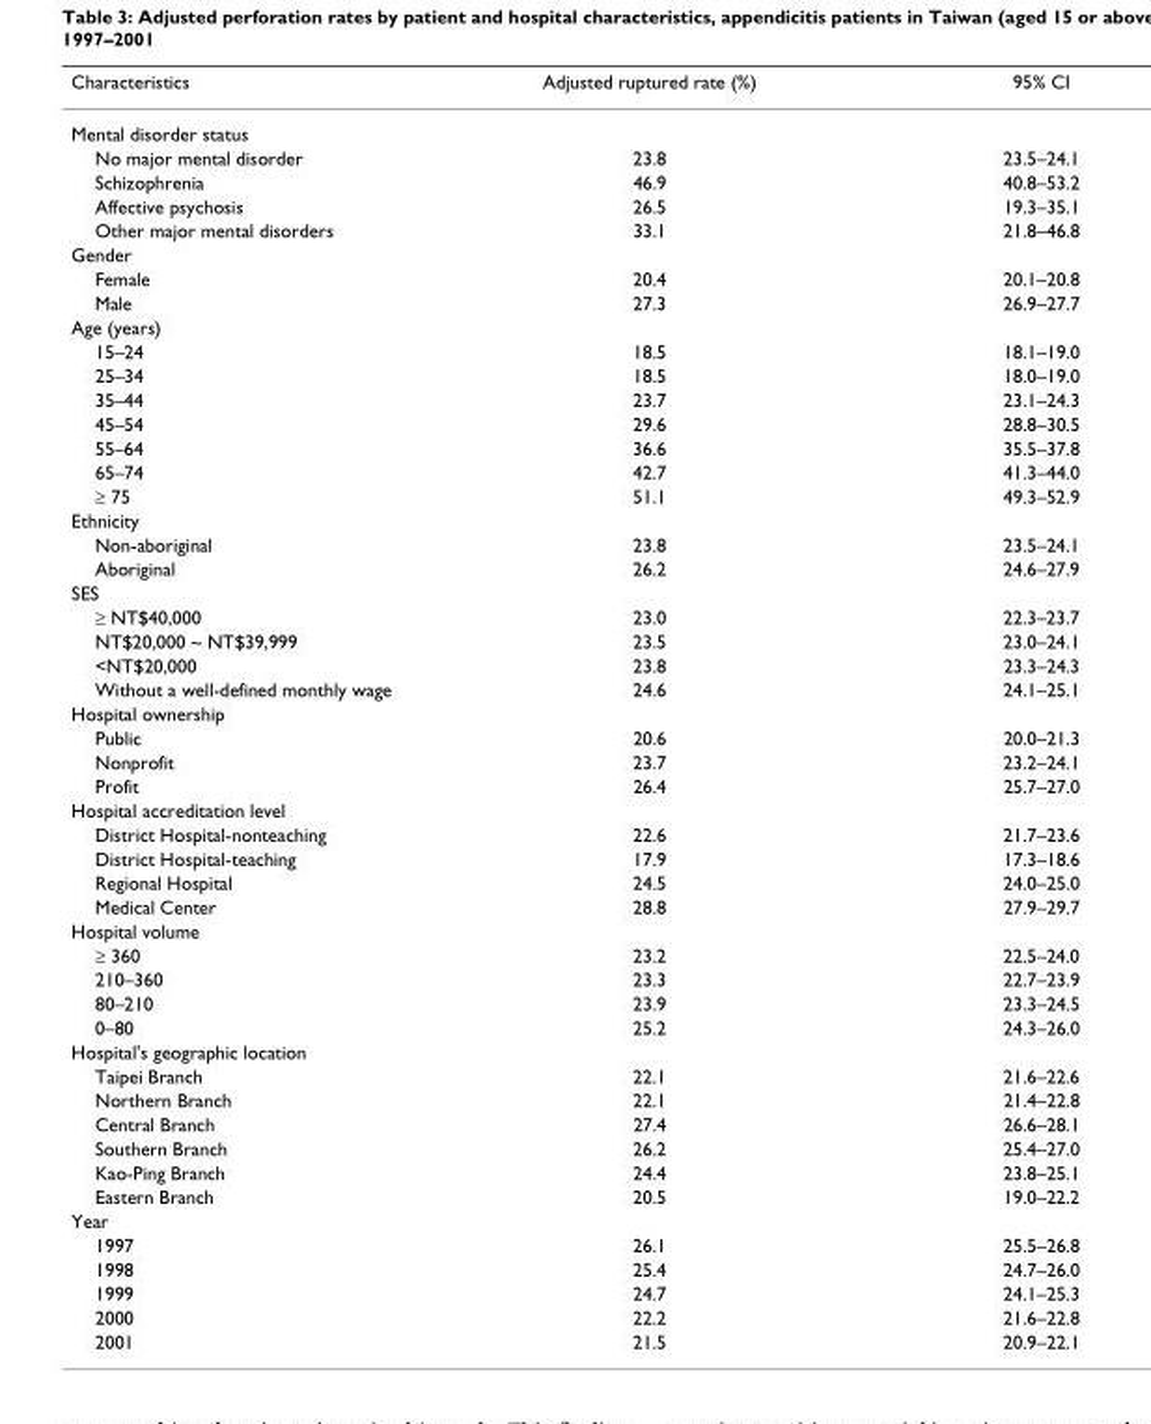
<table><thead><tr><td>Characteristics</td><td>Adjusted ruptured rate (%)</td><td>95% CI</td></tr></thead><tbody><tr><td colspan="3">Mental disorder status</td></tr><tr><td>No major mental disorder</td><td>23.8</td><td>23.5–24.1</td></tr><tr><td>Schizophrenia</td><td>46.9</td><td>40.8–53.2</td></tr><tr><td>Affective psychosis</td><td>26.5</td><td>19.3–35.1</td></tr><tr><td>Other major mental disorders</td><td>33.1</td><td>21.8–46.8</td></tr><tr><td colspan="3">Gender</td></tr><tr><td>Female</td><td>20.4</td><td>20.1–20.8</td></tr><tr><td>Male</td><td>27.3</td><td>26.9–27.7</td></tr><tr><td colspan="3">Age (years)</td></tr><tr><td>15–24</td><td>18.5</td><td>18.1–19.0</td></tr><tr><td>25–34</td><td>18.5</td><td>18.0–19.0</td></tr><tr><td>35–44</td><td>23.7</td><td>23.1–24.3</td></tr><tr><td>45–54</td><td>29.6</td><td>28.8–30.5</td></tr><tr><td>55–64</td><td>36.6</td><td>35.5–37.8</td></tr><tr><td>65–74</td><td>42.7</td><td>41.3–44.0</td></tr><tr><td>≥ 75</td><td>51.1</td><td>49.3–52.9</td></tr><tr><td colspan="3">Ethnicity</td></tr><tr><td>Non-aboriginal</td><td>23.8</td><td>23.5–24.1</td></tr><tr><td>Aboriginal</td><td>26.2</td><td>24.6–27.9</td></tr><tr><td colspan="3">SES</td></tr><tr><td>≥ NT$40,000</td><td>23.0</td><td>22.3–23.7</td></tr><tr><td>NT$20,000 ~ NT$39,999</td><td>23.5</td><td>23.0–24.1</td></tr><tr><td>&lt;NT$20,000</td><td>23.8</td><td>23.3–24.3</td></tr><tr><td>Without a well-defined monthly wage</td><td>24.6</td><td>24.1–25.1</td></tr><tr><td colspan="3">Hospital ownership</td></tr><tr><td>Public</td><td>20.6</td><td>20.0–21.3</td></tr><tr><td>Nonprofit</td><td>23.7</td><td>23.2–24.1</td></tr><tr><td>Profit</td><td>26.4</td><td>25.7–27.0</td></tr><tr><td colspan="3">Hospital accreditation level</td></tr><tr><td>District Hospital-nonteaching</td><td>22.6</td><td>21.7–23.6</td></tr><tr><td>District Hospital-teaching</td><td>17.9</td><td>17.3–18.6</td></tr><tr><td>Regional Hospital</td><td>24.5</td><td>24.0–25.0</td></tr><tr><td>Medical Center</td><td>28.8</td><td>27.9–29.7</td></tr><tr><td colspan="3">Hospital volume</td></tr><tr><td>≥ 360</td><td>23.2</td><td>22.5–24.0</td></tr><tr><td>210–360</td><td>23.3</td><td>22.7–23.9</td></tr><tr><td>80–210</td><td>23.9</td><td>23.3–24.5</td></tr><tr><td>0–80</td><td>25.2</td><td>24.3–26.0</td></tr><tr><td colspan="3">Hospital&#x27;s geographic location</td></tr><tr><td>Taipei Branch</td><td>22.1</td><td>21.6–22.6</td></tr><tr><td>Northern Branch</td><td>22.1</td><td>21.4–22.8</td></tr><tr><td>Central Branch</td><td>27.4</td><td>26.6–28.1</td></tr><tr><td>Southern Branch</td><td>26.2</td><td>25.4–27.0</td></tr><tr><td>Kao-Ping Branch</td><td>24.4</td><td>23.8–25.1</td></tr><tr><td>Eastern Branch</td><td>20.5</td><td>19.0–22.2</td></tr><tr><td colspan="3">Year</td></tr><tr><td>1997</td><td>26.1</td><td>25.5–26.8</td></tr><tr><td>1998</td><td>25.4</td><td>24.7–26.0</td></tr><tr><td>1999</td><td>24.7</td><td>24.1–25.3</td></tr><tr><td>2000</td><td>22.2</td><td>21.6–22.8</td></tr><tr><td>2001</td><td>21.5</td><td>20.9–22.1</td></tr></tbody></table>